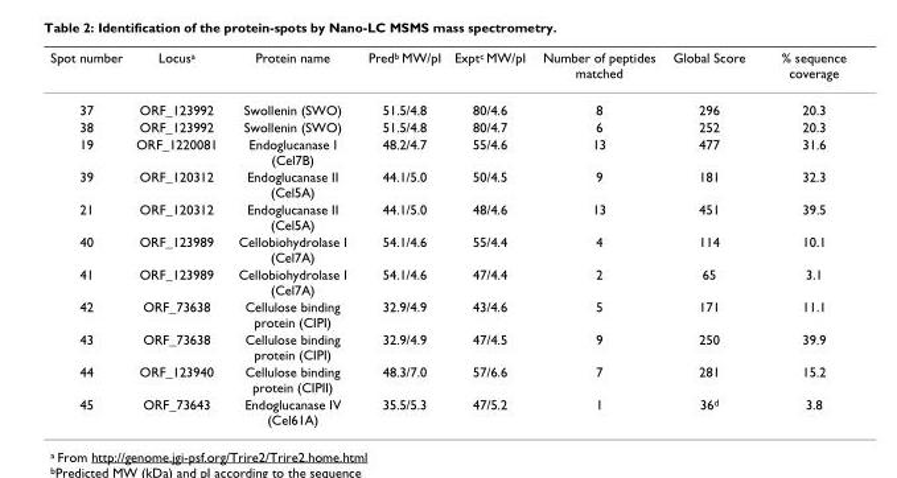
<table><thead><tr><td>Spot number</td><td>Locus<sup>a</sup></td><td>Protein name</td><td>Pred<sup>b</sup> MW/pI</td><td>Expt<sup>c</sup> MW/pI</td><td>Number of peptides matched</td><td>Global Score</td><td>% sequence coverage</td></tr></thead><tbody><tr><td>37</td><td>ORF_123992</td><td>Swollenin (SWO)</td><td>51.5/4.8</td><td>80/4.6</td><td>8</td><td>296</td><td>20.3</td></tr><tr><td>38</td><td>ORF_123992</td><td>Swollenin (SWO)</td><td>51.5/4.8</td><td>80/4.7</td><td>6</td><td>252</td><td>20.3</td></tr><tr><td>19</td><td>ORF_1220081</td><td>Endoglucanase I (Cel7B)</td><td>48.2/4.7</td><td>55/4.6</td><td>13</td><td>477</td><td>31.6</td></tr><tr><td>39</td><td>ORF_120312</td><td>Endoglucanase II (Cel5A)</td><td>44.1/5.0</td><td>50/4.5</td><td>9</td><td>181</td><td>32.3</td></tr><tr><td>21</td><td>ORF_120312</td><td>Endoglucanase II (Cel5A)</td><td>44.1/5.0</td><td>48/4.6</td><td>13</td><td>451</td><td>39.5</td></tr><tr><td>40</td><td>ORF_123989</td><td>Cellobiohydrolase I (Cel7A)</td><td>54.1/4.6</td><td>55/4.4</td><td>4</td><td>114</td><td>10.1</td></tr><tr><td>41</td><td>ORF_123989</td><td>Cellobiohydrolase I (Cel7A)</td><td>54.1/4.6</td><td>47/4.4</td><td>2</td><td>65</td><td>3.1</td></tr><tr><td>42</td><td>ORF_73638</td><td>Cellulose binding protein (CIPI)</td><td>32.9/4.9</td><td>43/4.6</td><td>5</td><td>171</td><td>11.1</td></tr><tr><td>43</td><td>ORF_73638</td><td>Cellulose binding protein (CIPI)</td><td>32.9/4.9</td><td>47/4.5</td><td>9</td><td>250</td><td>39.9</td></tr><tr><td>44</td><td>ORF_123940</td><td>Cellulose binding protein (CIPII)</td><td>48.3/7.0</td><td>57/6.6</td><td>7</td><td>281</td><td>15.2</td></tr><tr><td>45</td><td>ORF_73643</td><td>Endoglucanase IV (Cel61A)</td><td>35.5/5.3</td><td>47/5.2</td><td>1</td><td>36<sup>d</sup></td><td>3.8</td></tr></tbody></table>